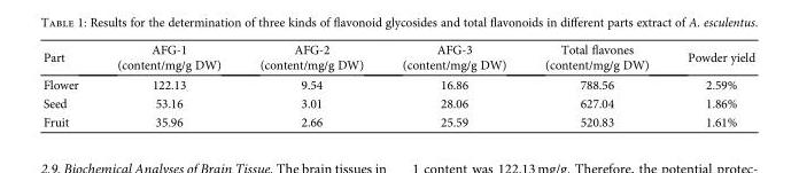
<table><thead><tr><td>Part</td><td>AFG-1 (content/mg/g DW)</td><td>AFG-2 (content/mg/g DW)</td><td>AFG-3 (content/mg/g DW)</td><td>Total flavones (content/mg/g DW)</td><td>Powder yield</td></tr></thead><tbody><tr><td>Flower</td><td>122.13</td><td>9.54</td><td>16.86</td><td>788.56</td><td>2.59%</td></tr><tr><td>Seed</td><td>53.16</td><td>3.01</td><td>28.06</td><td>627.04</td><td>1.86%</td></tr><tr><td>Fruit</td><td>35.96</td><td>2.66</td><td>25.59</td><td>520.83</td><td>1.61%</td></tr></tbody></table>